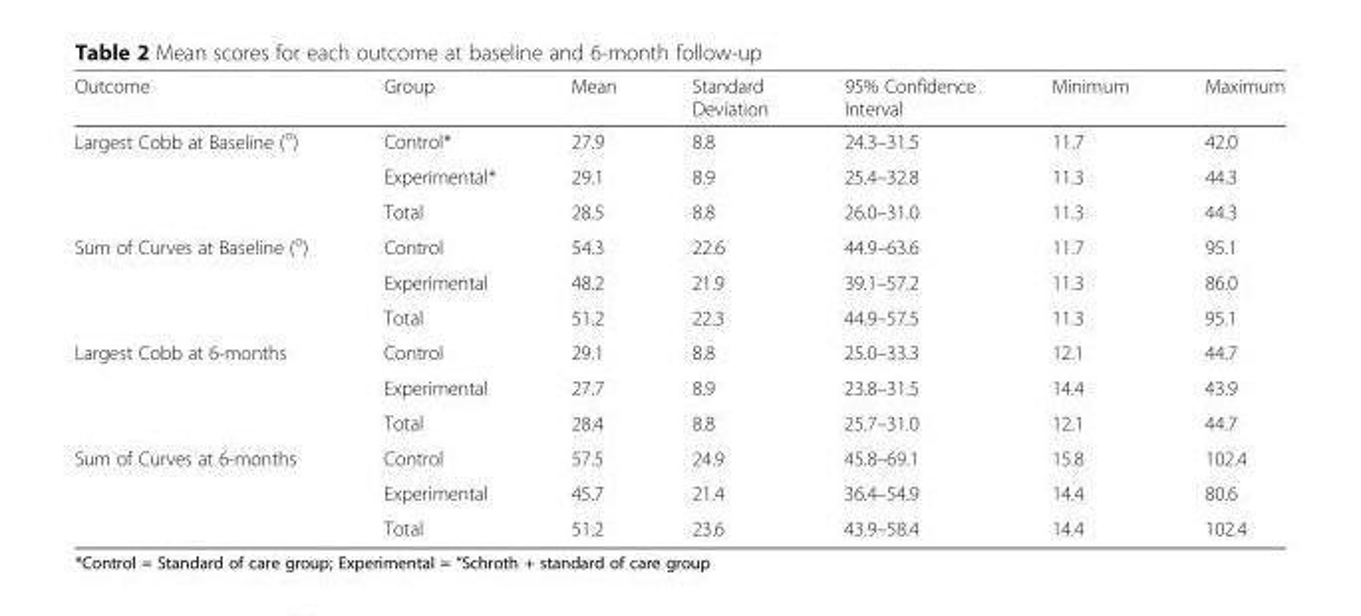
<table><thead><tr><td>Outcome</td><td>Group</td><td>Mean</td><td>Standard Deviation</td><td>95% Confidence Interval</td><td>Minimum</td><td>Maximum</td></tr></thead><tbody><tr><td rowspan="3">Largest Cobb at Baseline (<sup>o</sup>)</td><td>Control*</td><td>27.9</td><td>8.8</td><td>24.3–31.5</td><td>11.7</td><td>42.0</td></tr><tr><td>Experimental*</td><td>29.1</td><td>8.9</td><td>25.4–32.8</td><td>11.3</td><td>44.3</td></tr><tr><td>Total</td><td>28.5</td><td>8.8</td><td>26.0–31.0</td><td>11.3</td><td>44.3</td></tr><tr><td rowspan="3">Sum of Curves at Baseline (<sup>o</sup>)</td><td>Control</td><td>54.3</td><td>22.6</td><td>44.9–63.6</td><td>11.7</td><td>95.1</td></tr><tr><td>Experimental</td><td>48.2</td><td>21.9</td><td>39.1–57.2</td><td>11.3</td><td>86.0</td></tr><tr><td>Total</td><td>51.2</td><td>22.3</td><td>44.9–57.5</td><td>11.3</td><td>95.1</td></tr><tr><td rowspan="3">Largest Cobb at 6-months</td><td>Control</td><td>29.1</td><td>8.8</td><td>25.0–33.3</td><td>12.1</td><td>44.7</td></tr><tr><td>Experimental</td><td>27.7</td><td>8.9</td><td>23.8–31.5</td><td>14.4</td><td>43.9</td></tr><tr><td>Total</td><td>28.4</td><td>8.8</td><td>25.7–31.0</td><td>12.1</td><td>44.7</td></tr><tr><td rowspan="3">Sum of Curves at 6-months</td><td>Control</td><td>57.5</td><td>24.9</td><td>45.8–69.1</td><td>15.8</td><td>102.4</td></tr><tr><td>Experimental</td><td>45.7</td><td>21.4</td><td>36.4–54.9</td><td>14.4</td><td>80.6</td></tr><tr><td>Total</td><td>51.2</td><td>23.6</td><td>43.9–58.4</td><td>14.4</td><td>102.4</td></tr></tbody></table>